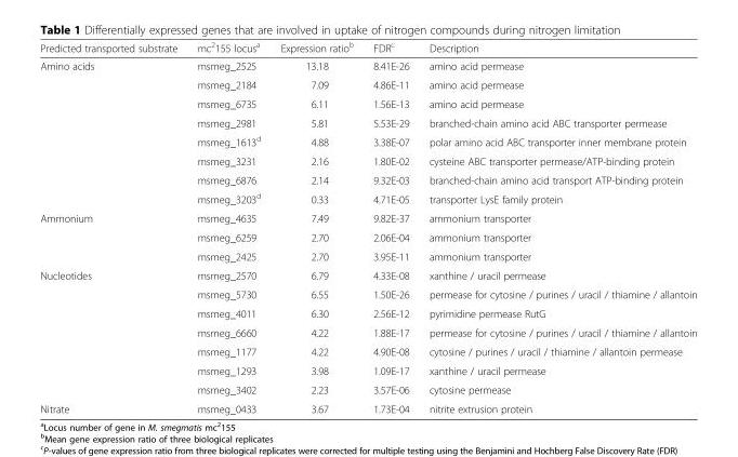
<table><thead><tr><td>Predicted transported substrate</td><td>mc<sup>2</sup>155 locus<sup>a</sup></td><td>Expression ratio<sup>b</sup></td><td>FDR<sup>c</sup></td><td>Description</td></tr></thead><tbody><tr><td rowspan="8">Amino acids</td><td>msmeg_2525</td><td>13.18</td><td>8.41E-26</td><td>amino acid permease</td></tr><tr><td>msmeg_2184</td><td>7.09</td><td>4.86E-11</td><td>amino acid permease</td></tr><tr><td>msmeg_6735</td><td>6.11</td><td>1.56E-13</td><td>amino acid permease</td></tr><tr><td>msmeg_2981</td><td>5.81</td><td>5.53E-29</td><td>branched-chain amino acid ABC transporter permease</td></tr><tr><td>msmeg_1613<sup>d</sup></td><td>4.88</td><td>3.38E-07</td><td>polar amino acid ABC transporter inner membrane protein</td></tr><tr><td>msmeg_3231</td><td>2.16</td><td>1.80E-02</td><td>cysteine ABC transporter permease/ATP-binding protein</td></tr><tr><td>msmeg_6876</td><td>2.14</td><td>9.32E-03</td><td>branched-chain amino acid transport ATP-binding protein</td></tr><tr><td>msmeg_3203<sup>d</sup></td><td>0.33</td><td>4.71E-05</td><td>transporter LysE family protein</td></tr><tr><td rowspan="3">Ammonium</td><td>msmeg_4635</td><td>7.49</td><td>9.82E-37</td><td>ammonium transporter</td></tr><tr><td>msmeg_6259</td><td>2.70</td><td>2.06E-04</td><td>ammonium transporter</td></tr><tr><td>msmeg_2425</td><td>2.70</td><td>3.95E-11</td><td>ammonium transporter</td></tr><tr><td rowspan="7">Nucleotides</td><td>msmeg_2570</td><td>6.79</td><td>4.33E-08</td><td>xanthine / uracil permease</td></tr><tr><td>msmeg_5730</td><td>6.55</td><td>1.50E-26</td><td>permease for cytosine / purines / uracil / thiamine / allantoin</td></tr><tr><td>msmeg_4011</td><td>6.30</td><td>2.56E-12</td><td>pyrimidine permease RutG</td></tr><tr><td>msmeg_6660</td><td>4.22</td><td>1.88E-17</td><td>permease for cytosine / purines / uracil / thiamine / allantoin</td></tr><tr><td>msmeg_1177</td><td>4.22</td><td>4.90E-08</td><td>cytosine / purines / uracil / thiamine / allantoin permease</td></tr><tr><td>msmeg_1293</td><td>3.98</td><td>1.09E-17</td><td>xanthine / uracil permease</td></tr><tr><td>msmeg_3402</td><td>2.23</td><td>3.57E-06</td><td>cytosine permease</td></tr><tr><td>Nitrate</td><td>msmeg_0433</td><td>3.67</td><td>1.73E-04</td><td>nitrite extrusion protein</td></tr></tbody></table>